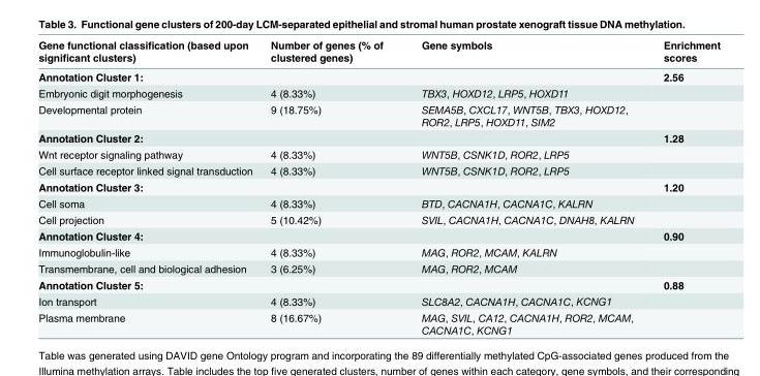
<table><thead><tr><td>Gene functional classification (based upon significant clusters)</td><td>Number of genes (% of clustered genes)</td><td>Gene symbols</td><td>Enrichment scores</td></tr></thead><tbody><tr><td>Annotation Cluster 1:</td><td></td><td></td><td>2.56</td></tr><tr><td>Embryonic digit morphogenesis</td><td>4 (8.33%)</td><td>TBX3, HOXD12, LRP5, HOXD11</td><td></td></tr><tr><td>Developmental protein</td><td>9 (18.75%)</td><td>SEMA5B, CXCL17, WNT5B, TBX3, HOXD12, ROR2, LRP5, HOXD11, SIM2</td><td></td></tr><tr><td>Annotation Cluster 2:</td><td></td><td></td><td>1.28</td></tr><tr><td>Wnt receptor signaling pathway</td><td>4 (8.33%)</td><td>WNT5B, CSNK1D, ROR2, LRP5</td><td></td></tr><tr><td>Cell surface receptor linked signal transduction</td><td>4 (8.33%)</td><td>WNT5B, CSNK1D, ROR2, LRP5</td><td></td></tr><tr><td>Annotation Cluster 3:</td><td></td><td></td><td>1.20</td></tr><tr><td>Cell soma</td><td>4 (8.33%)</td><td>BTD, CACNA1H, CACNA1C, KALRN</td><td></td></tr><tr><td>Cell projection</td><td>5 (10.42%)</td><td>SVIL, CACNA1H, CACNA1C, DNAH8, KALRN</td><td></td></tr><tr><td>Annotation Cluster 4:</td><td></td><td></td><td>0.90</td></tr><tr><td>Immunoglobulin-like</td><td>4 (8.33%)</td><td>MAG, ROR2, MCAM, KALRN</td><td></td></tr><tr><td>Transmembrane, cell and biological adhesion</td><td>3 (6.25%)</td><td>MAG, ROR2, MCAM</td><td></td></tr><tr><td>Annotation Cluster 5:</td><td></td><td></td><td>0.88</td></tr><tr><td>Ion transport</td><td>4 (8.33%)</td><td>SLC8A2, CACNA1H, CACNA1C, KCNG1</td><td></td></tr><tr><td>Plasma membrane</td><td>8 (16.67%)</td><td>MAG, SVIL, CA12, CACNA1H, ROR2, MCAM, CACNA1C, KCNG1</td><td></td></tr></tbody></table>